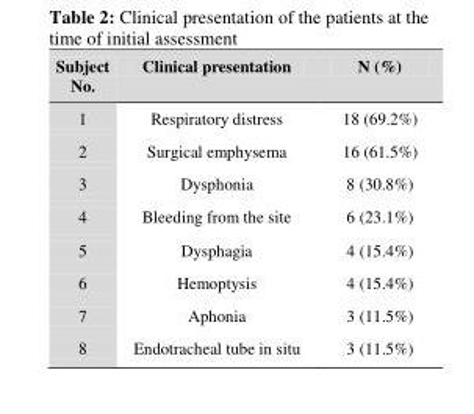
<table><thead><tr><td>Subject No.</td><td>Clinical presentation</td><td>N (%)</td></tr></thead><tbody><tr><td>1</td><td>Respiratory distress</td><td>18 (69.2%)</td></tr><tr><td>2</td><td>Surgical emphysema</td><td>16 (61.5%)</td></tr><tr><td>3</td><td>Dysphonia</td><td>8 (30.8%)</td></tr><tr><td>4</td><td>Bleeding from the site</td><td>6 (23.1%)</td></tr><tr><td>5</td><td>Dysphagia</td><td>4 (15.4%)</td></tr><tr><td>6</td><td>Hemoptysis</td><td>4 (15.4%)</td></tr><tr><td>7</td><td>Aphonia</td><td>3 (11.5%)</td></tr><tr><td>8</td><td>Endotracheal tube in situ</td><td>3 (11.5%)</td></tr></tbody></table>